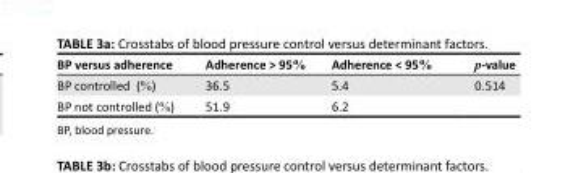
<table><thead><tr><td>BP versus adherence</td><td>Adherence &gt; 95%</td><td>Adherence &lt; 95%</td><td>p-value</td></tr></thead><tbody><tr><td>BP controlled (%)</td><td>36.5</td><td>5.4</td><td>0.514</td></tr><tr><td>BP not controlled (%)</td><td>51.9</td><td>6.2</td><td></td></tr></tbody></table>